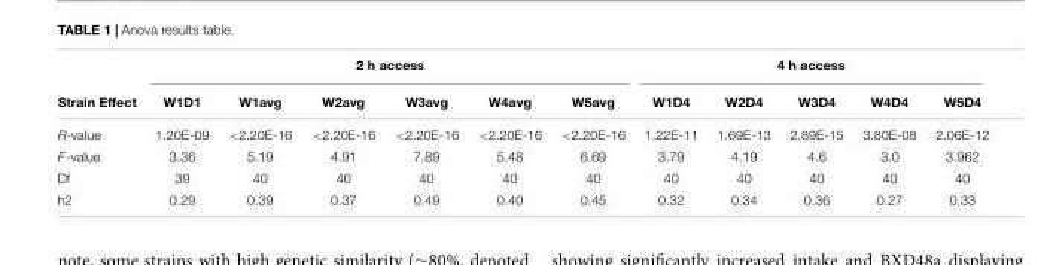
<table><thead><tr><td rowspan="2">Strain Effect</td><td colspan="6">2 h access</td><td colspan="5">4 h access</td></tr><tr><td>W1D1</td><td>W1avg</td><td>W2avg</td><td>W3avg</td><td>W4avg</td><td>W5avg</td><td>W1D4</td><td>W2D4</td><td>W3D4</td><td>W4D4</td><td>W5D4</td></tr></thead><tbody><tr><td>R-value</td><td>1.20E-09</td><td>&lt;2.20E-16</td><td>&lt;2.20E-16</td><td>&lt;2.20E-16</td><td>&lt;2.20E-16</td><td>&lt;2.20E-16</td><td>1.22E-11</td><td>1.69E-13</td><td>2.89E-15</td><td>3.80E-08</td><td>2.06E-12</td></tr><tr><td>F-value</td><td>3.36</td><td>5.19</td><td>4.91</td><td>7.89</td><td>5.48</td><td>6.69</td><td>3.79</td><td>4.19</td><td>4.6</td><td>3.0</td><td>3.962</td></tr><tr><td>Df</td><td>39</td><td>40</td><td>40</td><td>40</td><td>40</td><td>40</td><td>40</td><td>40</td><td>40</td><td>40</td><td>40</td></tr><tr><td>h2</td><td>0.29</td><td>0.39</td><td>0.37</td><td>0.49</td><td>0.40</td><td>0.45</td><td>0.32</td><td>0.34</td><td>0.36</td><td>0.27</td><td>0.33</td></tr></tbody></table>